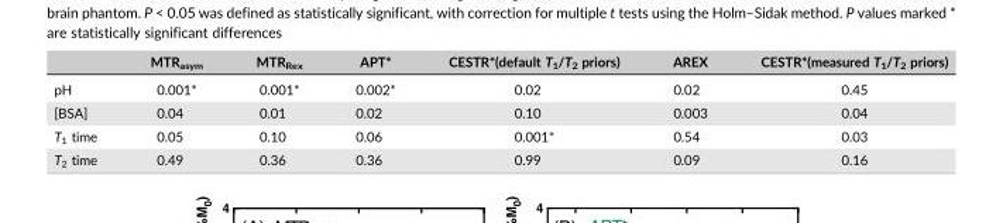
<table><thead><tr><td></td><td>MTR<sub>asym</sub></td><td>MTR<sub>Rex</sub></td><td>APT*</td><td>CESTR*(default T<sub>1</sub>/T<sub>2</sub> priors)</td><td>AREX</td><td>CESTR*(measured T<sub>1</sub>/T<sub>2</sub> priors)</td></tr></thead><tbody><tr><td>pH</td><td>0.001*</td><td>0.001*</td><td>0.002*</td><td>0.02</td><td>0.02</td><td>0.45</td></tr><tr><td>[BSA]</td><td>0.04</td><td>0.01</td><td>0.02</td><td>0.10</td><td>0.003</td><td>0.04</td></tr><tr><td>T<sub>1</sub> time</td><td>0.05</td><td>0.10</td><td>0.06</td><td>0.001*</td><td>0.54</td><td>0.03</td></tr><tr><td>T<sub>2</sub> time</td><td>0.49</td><td>0.36</td><td>0.36</td><td>0.99</td><td>0.09</td><td>0.16</td></tr></tbody></table>